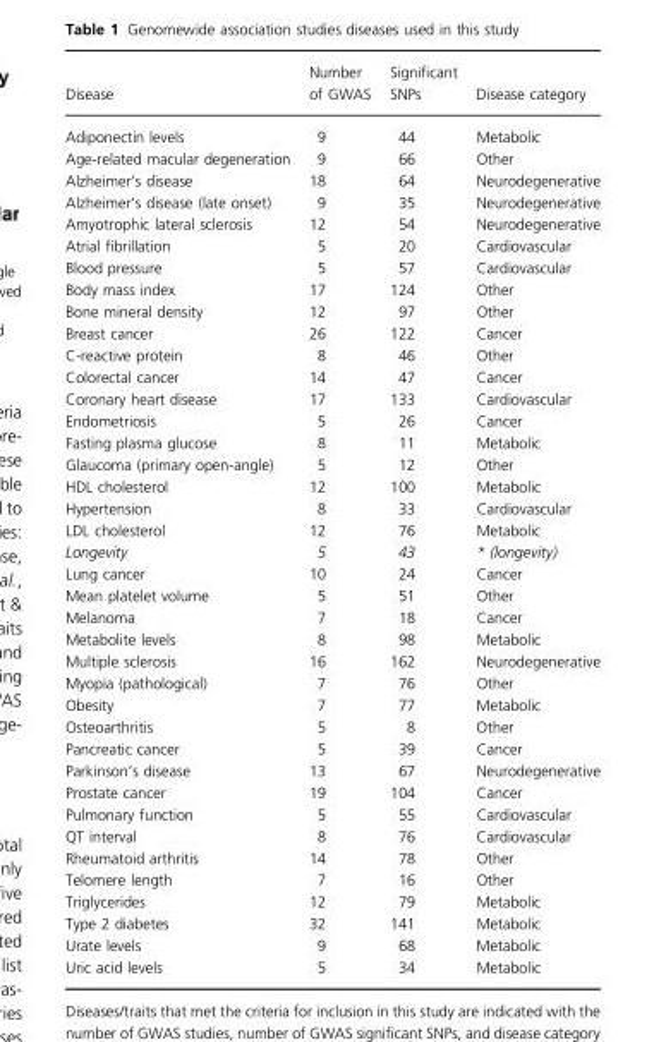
<table><thead><tr><td>Disease</td><td>Number of GWAS</td><td>Significant SNPs</td><td>Disease category</td></tr></thead><tbody><tr><td>Adiponectin levels</td><td>9</td><td>44</td><td>Metabolic</td></tr><tr><td>Age-related macular degeneration</td><td>9</td><td>66</td><td>Other</td></tr><tr><td>Alzheimer’s disease</td><td>18</td><td>64</td><td>Neurodegenerative</td></tr><tr><td>Alzheimer’s disease (late onset)</td><td>9</td><td>35</td><td>Neurodegenerative</td></tr><tr><td>Amyotrophic lateral sclerosis</td><td>12</td><td>54</td><td>Neurodegenerative</td></tr><tr><td>Atrial fibrillation</td><td>5</td><td>20</td><td>Cardiovascular</td></tr><tr><td>Blood pressure</td><td>5</td><td>57</td><td>Cardiovascular</td></tr><tr><td>Body mass index</td><td>17</td><td>124</td><td>Other</td></tr><tr><td>Bone mineral density</td><td>12</td><td>97</td><td>Other</td></tr><tr><td>Breast cancer</td><td>26</td><td>122</td><td>Cancer</td></tr><tr><td>C-reactive protein</td><td>8</td><td>46</td><td>Other</td></tr><tr><td>Colorectal cancer</td><td>14</td><td>47</td><td>Cancer</td></tr><tr><td>Coronary heart disease</td><td>17</td><td>133</td><td>Cardiovascular</td></tr><tr><td>Endometriosis</td><td>5</td><td>26</td><td>Cancer</td></tr><tr><td>Fasting plasma glucose</td><td>8</td><td>11</td><td>Metabolic</td></tr><tr><td>Glaucoma (primary open-angle)</td><td>5</td><td>12</td><td>Other</td></tr><tr><td>HDL cholesterol</td><td>12</td><td>100</td><td>Metabolic</td></tr><tr><td>Hypertension</td><td>8</td><td>33</td><td>Cardiovascular</td></tr><tr><td>LDL cholesterol</td><td>12</td><td>76</td><td>Metabolic</td></tr><tr><td>Longevity</td><td>5</td><td>43</td><td>* (longevity)</td></tr><tr><td>Lung cancer</td><td>10</td><td>24</td><td>Cancer</td></tr><tr><td>Mean platelet volume</td><td>5</td><td>51</td><td>Other</td></tr><tr><td>Melanoma</td><td>7</td><td>18</td><td>Cancer</td></tr><tr><td>Metabolite levels</td><td>8</td><td>98</td><td>Metabolic</td></tr><tr><td>Multiple sclerosis</td><td>16</td><td>162</td><td>Neurodegenerative</td></tr><tr><td>Myopia (pathological)</td><td>7</td><td>76</td><td>Other</td></tr><tr><td>Obesity</td><td>7</td><td>77</td><td>Metabolic</td></tr><tr><td>Osteoarthritis</td><td>5</td><td>8</td><td>Other</td></tr><tr><td>Pancreatic cancer</td><td>5</td><td>39</td><td>Cancer</td></tr><tr><td>Parkinson’s disease</td><td>13</td><td>67</td><td>Neurodegenerative</td></tr><tr><td>Prostate cancer</td><td>19</td><td>104</td><td>Cancer</td></tr><tr><td>Pulmonary function</td><td>5</td><td>55</td><td>Cardiovascular</td></tr><tr><td>QT interval</td><td>8</td><td>76</td><td>Cardiovascular</td></tr><tr><td>Rheumatoid arthritis</td><td>14</td><td>78</td><td>Other</td></tr><tr><td>Telomere length</td><td>7</td><td>16</td><td>Other</td></tr><tr><td>Triglycerides</td><td>12</td><td>79</td><td>Metabolic</td></tr><tr><td>Type 2 diabetes</td><td>32</td><td>141</td><td>Metabolic</td></tr><tr><td>Urate levels</td><td>9</td><td>68</td><td>Metabolic</td></tr><tr><td>Uric acid levels</td><td>5</td><td>34</td><td>Metabolic</td></tr></tbody></table>